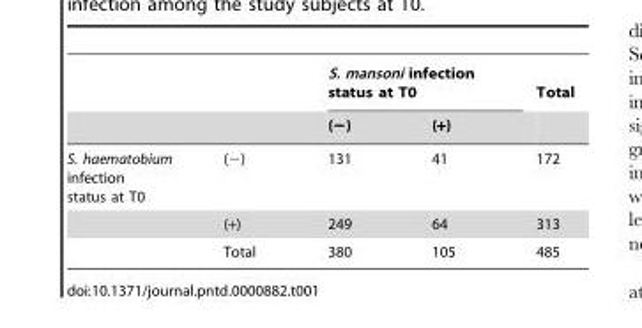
<table><thead><tr><td rowspan="2"></td><td rowspan="2"></td><td colspan="2">S. mansoni infection status at T0</td><td rowspan="2">Total</td></tr><tr><td>(−)</td><td>(+)</td></tr></thead><tbody><tr><td rowspan="3">S. haematobium infection status at T0</td><td>(−)</td><td>131</td><td>41</td><td>172</td></tr><tr><td>(+)</td><td>249</td><td>64</td><td>313</td></tr><tr><td>Total</td><td>380</td><td>105</td><td>485</td></tr></tbody></table>